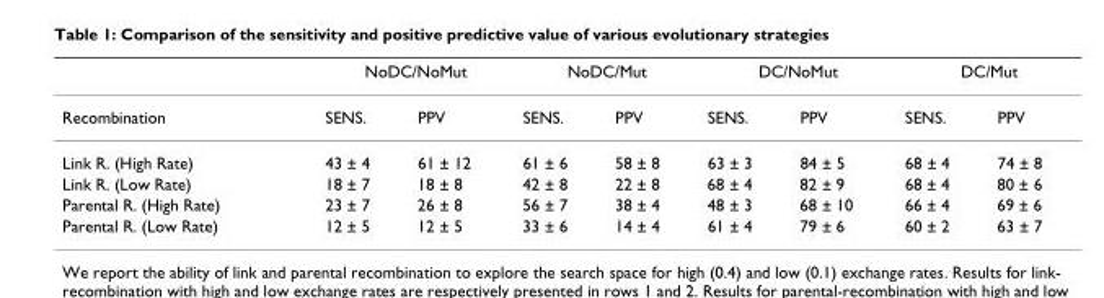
<table><thead><tr><td rowspan="2">Recombination</td><td colspan="2">NoDC/NoMut</td><td colspan="2">NoDC/Mut</td><td colspan="2">DC/NoMut</td><td colspan="2">DC/Mut</td></tr><tr><td>SENS.</td><td>PPV</td><td>SENS.</td><td>PPV</td><td>SENS.</td><td>PPV</td><td>SENS.</td><td>PPV</td></tr></thead><tbody><tr><td>Link R. (High Rate)</td><td>43 ± 4</td><td>61 ± 12</td><td>61 ± 6</td><td>58 ± 8</td><td>63 ± 3</td><td>84 ± 5</td><td>68 ± 4</td><td>74 ± 8</td></tr><tr><td>Link R. (Low Rate)</td><td>18 ± 7</td><td>18 ± 8</td><td>42 ± 8</td><td>22 ± 8</td><td>68 ± 4</td><td>82 ± 9</td><td>68 ± 4</td><td>80 ± 6</td></tr><tr><td>Parental R. (High Rate)</td><td>23 ± 7</td><td>26 ± 8</td><td>56 ± 7</td><td>38 ± 4</td><td>48 ± 3</td><td>68 ± 10</td><td>66 ± 4</td><td>69 ± 6</td></tr><tr><td>Parental R. (Low Rate)</td><td>12 ± 5</td><td>12 ± 5</td><td>33 ± 6</td><td>14 ± 4</td><td>61 ± 4</td><td>79 ± 6</td><td>60 ± 2</td><td>63 ± 7</td></tr></tbody></table>